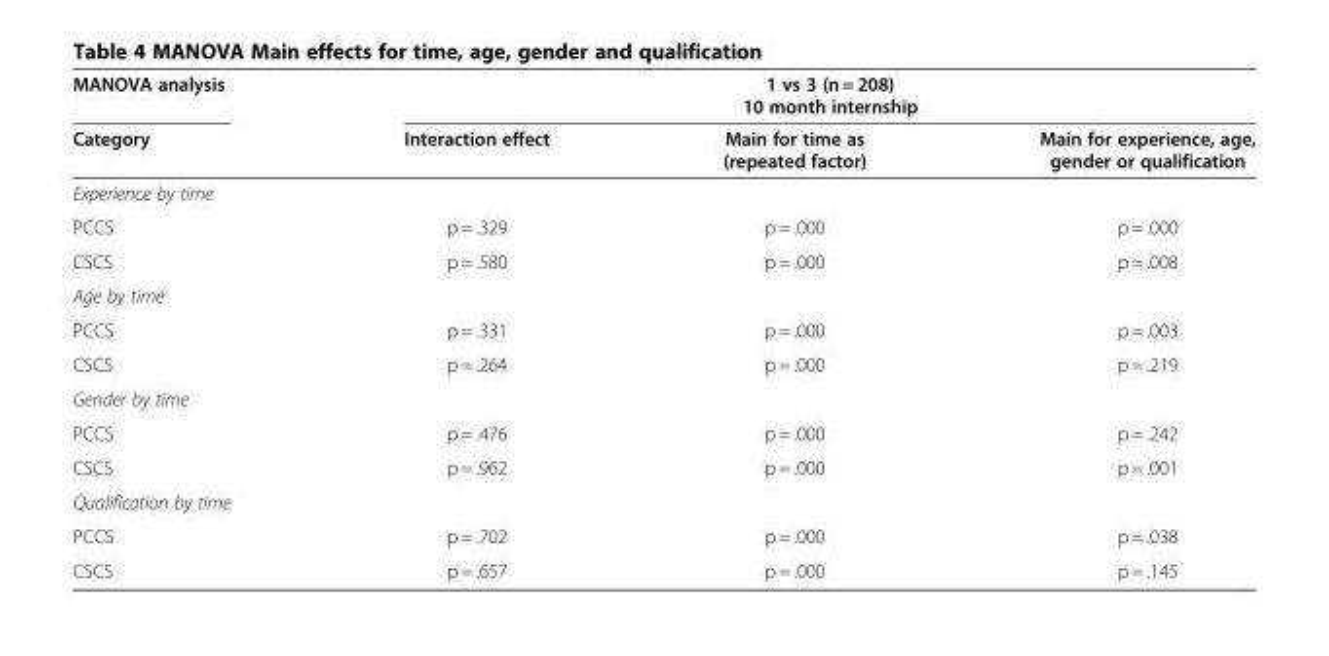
<table><thead><tr><td rowspan="2">MANOVA analysis Category</td><td colspan="3">1 vs 3 (n = 208) 10 month internship</td></tr><tr><td>Interaction effect</td><td>Main for time as (repeated factor)</td><td>Main for experience, age, gender or qualification</td></tr></thead><tbody><tr><td colspan="4">Experience by time</td></tr><tr><td>PCCS</td><td>p = .329</td><td>p = .000</td><td>p = .000</td></tr><tr><td>CSCS</td><td>p = .580</td><td>p = .000</td><td>p = .008</td></tr><tr><td colspan="4">Age by time</td></tr><tr><td>PCCS</td><td>p = .331</td><td>p = .000</td><td>p = .003</td></tr><tr><td>CSCS</td><td>p = .264</td><td>p = .000</td><td>p = .219</td></tr><tr><td colspan="4">Gender by time</td></tr><tr><td>PCCS</td><td>p = .476</td><td>p = .000</td><td>p = .242</td></tr><tr><td>CSCS</td><td>p = .962</td><td>p = .000</td><td>p = .001</td></tr><tr><td colspan="4">Qualification by time</td></tr><tr><td>PCCS</td><td>p = .702</td><td>p = .000</td><td>p = .038</td></tr><tr><td>CSCS</td><td>p = .657</td><td>p = .000</td><td>p = .145</td></tr></tbody></table>